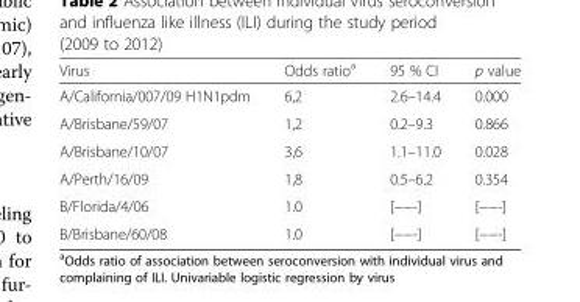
<table><thead><tr><td>Virus</td><td>Odds ratio<sup>a</sup></td><td>95 % CI</td><td>p value</td></tr></thead><tbody><tr><td>A/California/007/09 H1N1pdm</td><td>6,2</td><td>2.6–14.4</td><td>0.000</td></tr><tr><td>A/Brisbane/59/07</td><td>1,2</td><td>0.2–9.3</td><td>0.866</td></tr><tr><td>A/Brisbane/10/07</td><td>3,6</td><td>1.1–11.0</td><td>0.028</td></tr><tr><td>A/Perth/16/09</td><td>1,8</td><td>0.5–6.2</td><td>0.354</td></tr><tr><td>B/Florida/4/06</td><td>1.0</td><td>[−−-]</td><td>[−−-]</td></tr><tr><td>B/Brisbane/60/08</td><td>1.0</td><td>[−−-]</td><td>[−−-]</td></tr></tbody></table>